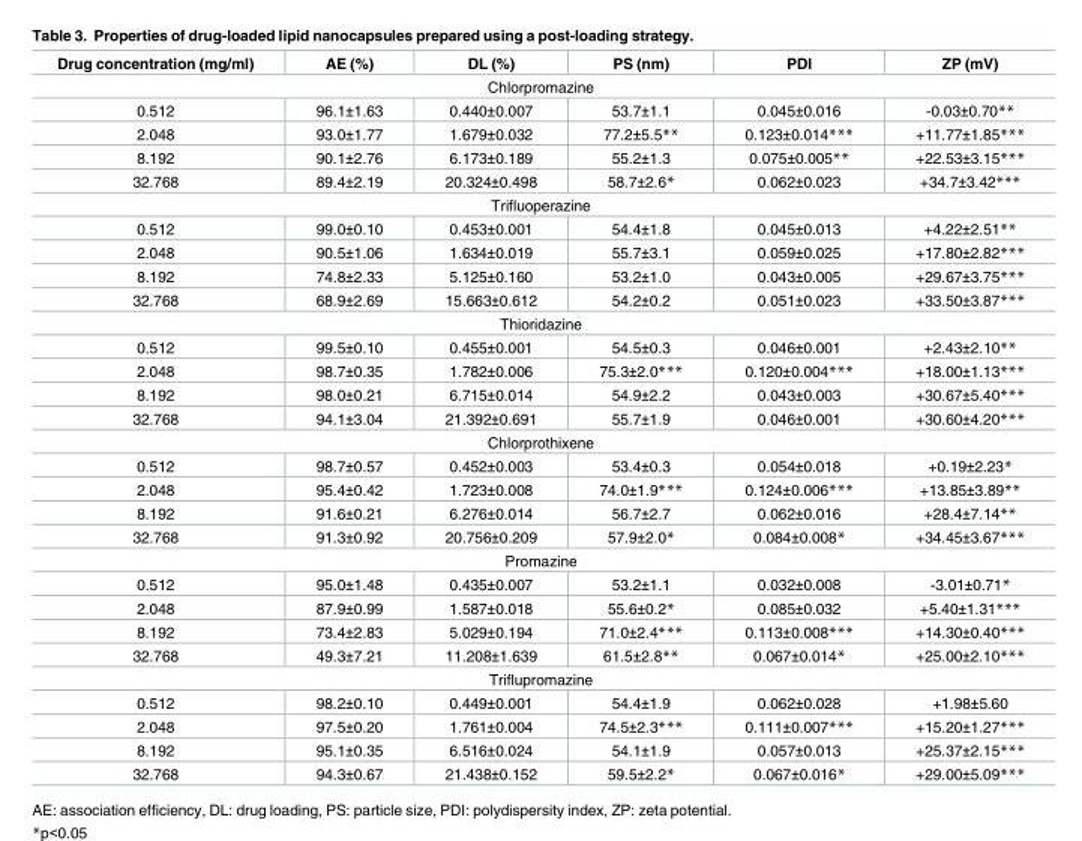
<table><thead><tr><td>Drug concentration (mg/ml)</td><td>AE (%)</td><td>DL (%)</td><td>PS (nm)</td><td>PDI</td><td>ZP (mV)</td></tr></thead><tbody><tr><td colspan="6">Chlorpromazine</td></tr><tr><td>0.512</td><td>96.1±1.63</td><td>0.440±0.007</td><td>53.7±1.1</td><td>0.045±0.016</td><td>-0.03±0.70**</td></tr><tr><td>2.048</td><td>93.0±1.77</td><td>1.679±0.032</td><td>77.2±5.5**</td><td>0.123±0.014***</td><td>+11.77±1.85***</td></tr><tr><td>8.192</td><td>90.1±2.76</td><td>6.173±0.189</td><td>55.2±1.3</td><td>0.075±0.005**</td><td>+22.53±3.15***</td></tr><tr><td>32.768</td><td>89.4±2.19</td><td>20.324±0.498</td><td>58.7±2.6*</td><td>0.062±0.023</td><td>+34.7±3.42***</td></tr><tr><td colspan="6">Trifluoperazine</td></tr><tr><td>0.512</td><td>99.0±0.10</td><td>0.453±0.001</td><td>54.4±1.8</td><td>0.045±0.013</td><td>+4.22±2.51**</td></tr><tr><td>2.048</td><td>90.5±1.06</td><td>1.634±0.019</td><td>55.7±3.1</td><td>0.059±0.025</td><td>+17.80±2.82***</td></tr><tr><td>8.192</td><td>74.8±2.33</td><td>5.125±0.160</td><td>53.2±1.0</td><td>0.043±0.005</td><td>+29.67±3.75***</td></tr><tr><td>32.768</td><td>68.9±2.69</td><td>15.663±0.612</td><td>54.2±0.2</td><td>0.051±0.023</td><td>+33.50±3.87***</td></tr><tr><td colspan="6">Thioridazine</td></tr><tr><td>0.512</td><td>99.5±0.10</td><td>0.455±0.001</td><td>54.5±0.3</td><td>0.046±0.001</td><td>+2.43±2.10**</td></tr><tr><td>2.048</td><td>98.7±0.35</td><td>1.782±0.006</td><td>75.3±2.0***</td><td>0.120±0.004***</td><td>+18.00±1.13***</td></tr><tr><td>8.192</td><td>98.0±0.21</td><td>6.715±0.014</td><td>54.9±2.2</td><td>0.043±0.003</td><td>+30.67±5.40***</td></tr><tr><td>32.768</td><td>94.1±3.04</td><td>21.392±0.691</td><td>55.7±1.9</td><td>0.046±0.001</td><td>+30.60±4.20***</td></tr><tr><td colspan="6">Chlorprothixene</td></tr><tr><td>0.512</td><td>98.7±0.57</td><td>0.452±0.003</td><td>53.4±0.3</td><td>0.054±0.018</td><td>+0.19±2.23*</td></tr><tr><td>2.048</td><td>95.4±0.42</td><td>1.723±0.008</td><td>74.0±1.9***</td><td>0.124±0.006***</td><td>+13.85±3.89**</td></tr><tr><td>8.192</td><td>91.6±0.21</td><td>6.276±0.014</td><td>56.7±2.7</td><td>0.062±0.016</td><td>+28.4±7.14**</td></tr><tr><td>32.768</td><td>91.3±0.92</td><td>20.756±0.209</td><td>57.9±2.0*</td><td>0.084±0.008*</td><td>+34.45±3.67***</td></tr><tr><td colspan="6">Promazine</td></tr><tr><td>0.512</td><td>95.0±1.48</td><td>0.435±0.007</td><td>53.2±1.1</td><td>0.032±0.008</td><td>-3.01±0.71*</td></tr><tr><td>2.048</td><td>87.9±0.99</td><td>1.587±0.018</td><td>55.6±0.2*</td><td>0.085±0.032</td><td>+5.40±1.31***</td></tr><tr><td>8.192</td><td>73.4±2.83</td><td>5.029±0.194</td><td>71.0±2.4***</td><td>0.113±0.008***</td><td>+14.30±0.40***</td></tr><tr><td>32.768</td><td>49.3±7.21</td><td>11.208±1.639</td><td>61.5±2.8**</td><td>0.067±0.014*</td><td>+25.00±2.10***</td></tr><tr><td colspan="6">Triflupromazine</td></tr><tr><td>0.512</td><td>98.2±0.10</td><td>0.449±0.001</td><td>54.4±1.9</td><td>0.062±0.028</td><td>+1.98±5.60</td></tr><tr><td>2.048</td><td>97.5±0.20</td><td>1.761±0.004</td><td>74.5±2.3***</td><td>0.111±0.007***</td><td>+15.20±1.27***</td></tr><tr><td>8.192</td><td>95.1±0.35</td><td>6.516±0.024</td><td>54.1±1.9</td><td>0.057±0.013</td><td>+25.37±2.15***</td></tr><tr><td>32.768</td><td>94.3±0.67</td><td>21.438±0.152</td><td>59.5±2.2*</td><td>0.067±0.016*</td><td>+29.00±5.09***</td></tr></tbody></table>